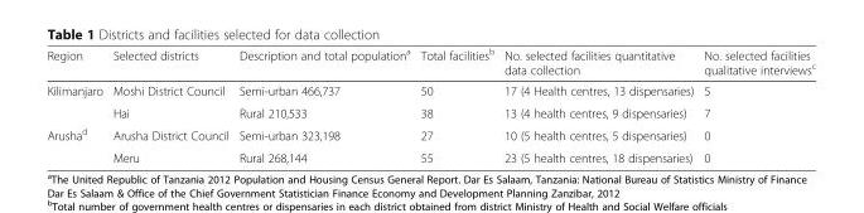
<table><thead><tr><td>Region</td><td>Selected districts</td><td>Description and total population<sup>a</sup></td><td>Total facilities<sup>b</sup></td><td>No. selected facilities quantitative data collection</td><td>No. selected facilities qualitative interviews<sup>c</sup></td></tr></thead><tbody><tr><td rowspan="2">Kilimanjaro</td><td>Moshi District Council</td><td>Semi-urban 466,737</td><td>50</td><td>17 (4 Health centres, 13 dispensaries)</td><td>5</td></tr><tr><td>Hai</td><td>Rural 210,533</td><td>38</td><td>13 (4 health centres, 9 dispensaries)</td><td>7</td></tr><tr><td rowspan="2">Arusha<sup>d</sup></td><td>Arusha District Council</td><td>Semi-urban 323,198</td><td>27</td><td>10 (5 health centres, 5 dispensaries)</td><td>0</td></tr><tr><td>Meru</td><td>Rural 268,144</td><td>55</td><td>23 (5 health centres, 18 dispensaries)</td><td>0</td></tr></tbody></table>